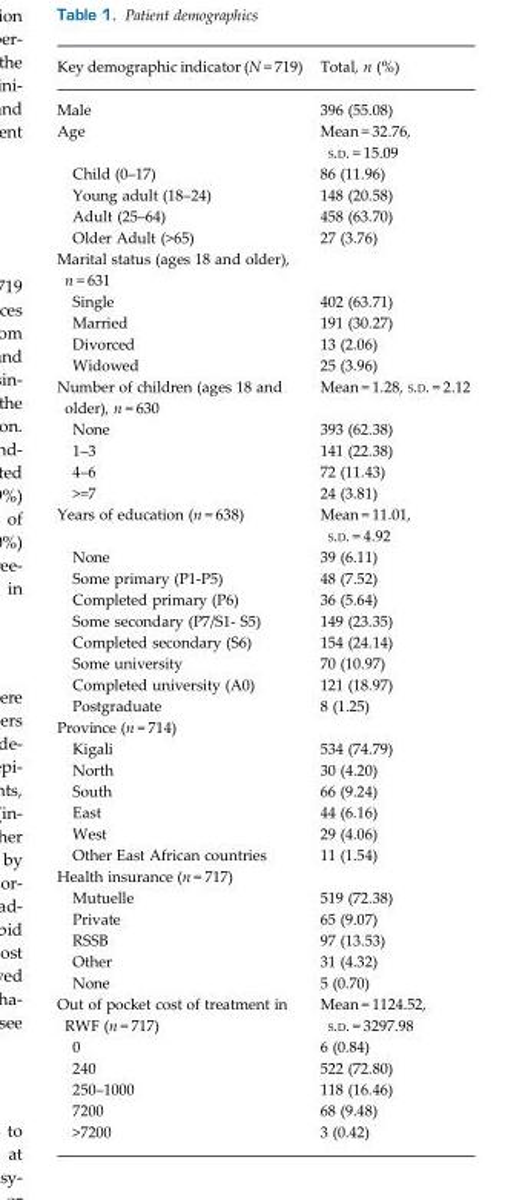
<table><thead><tr><td>Key demographic indicator (N = 719)</td><td>Total, n (%)</td></tr></thead><tbody><tr><td>Male</td><td>396 (55.08)</td></tr><tr><td>Age</td><td>Mean = 32.76, S.D. = 15.09</td></tr><tr><td>Child (0–17)</td><td>86 (11.96)</td></tr><tr><td>Young adult (18–24)</td><td>148 (20.58)</td></tr><tr><td>Adult (25–64)</td><td>458 (63.70)</td></tr><tr><td>Older Adult (&gt;65)</td><td>27 (3.76)</td></tr><tr><td colspan="2">Marital status (ages 18 and older), n = 631</td></tr><tr><td>Single</td><td>402 (63.71)</td></tr><tr><td>Married</td><td>191 (30.27)</td></tr><tr><td>Divorced</td><td>13 (2.06)</td></tr><tr><td>Widowed</td><td>25 (3.96)</td></tr><tr><td>Number of children (ages 18 and older), n = 630</td><td>Mean = 1.28, S.D. = 2.12</td></tr><tr><td>None</td><td>393 (62.38)</td></tr><tr><td>1–3</td><td>141 (22.38)</td></tr><tr><td>4–6</td><td>72 (11.43)</td></tr><tr><td>&gt;=7</td><td>24 (3.81)</td></tr><tr><td>Years of education (n = 638)</td><td>Mean = 11.01, S.D. = 4.92</td></tr><tr><td>None</td><td>39 (6.11)</td></tr><tr><td>Some primary (P1-P5)</td><td>48 (7.52)</td></tr><tr><td>Completed primary (P6)</td><td>36 (5.64)</td></tr><tr><td>Some secondary (P7/S1- S5)</td><td>149 (23.35)</td></tr><tr><td>Completed secondary (S6)</td><td>154 (24.14)</td></tr><tr><td>Some university</td><td>70 (10.97)</td></tr><tr><td>Completed university (A0)</td><td>121 (18.97)</td></tr><tr><td>Postgraduate</td><td>8 (1.25)</td></tr><tr><td colspan="2">Province (n = 714)</td></tr><tr><td>Kigali</td><td>534 (74.79)</td></tr><tr><td>North</td><td>30 (4.20)</td></tr><tr><td>South</td><td>66 (9.24)</td></tr><tr><td>East</td><td>44 (6.16)</td></tr><tr><td>West</td><td>29 (4.06)</td></tr><tr><td>Other East African countries</td><td>11 (1.54)</td></tr><tr><td colspan="2">Health insurance (n = 717)</td></tr><tr><td>Mutuelle</td><td>519 (72.38)</td></tr><tr><td>Private</td><td>65 (9.07)</td></tr><tr><td>RSSB</td><td>97 (13.53)</td></tr><tr><td>Other</td><td>31 (4.32)</td></tr><tr><td>None</td><td>5 (0.70)</td></tr><tr><td>Out of pocket cost of treatment in RWF (n = 717)</td><td>Mean = 1124.52, S.D. = 3297.98</td></tr><tr><td>0</td><td>6 (0.84)</td></tr><tr><td>240</td><td>522 (72.80)</td></tr><tr><td>250–1000</td><td>118 (16.46)</td></tr><tr><td>7200</td><td>68 (9.48)</td></tr><tr><td>&gt;7200</td><td>3 (0.42)</td></tr></tbody></table>